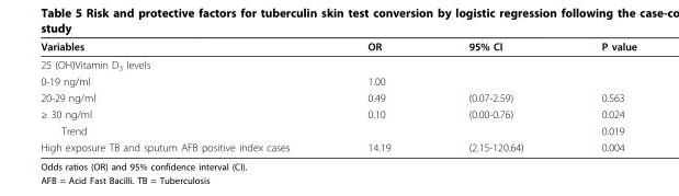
<table><thead><tr><td>Variables</td><td>OR</td><td>95% CI</td><td>P value</td></tr></thead><tbody><tr><td colspan="4">25 (OH)Vitamin D<sub>3</sub> levels</td></tr><tr><td>0-19 ng/ml</td><td>1.00</td><td></td><td></td></tr><tr><td>20-29 ng/ml</td><td>0.49</td><td>(0.07-2.59)</td><td>0.563</td></tr><tr><td>≥ 30 ng/ml</td><td>0.10</td><td>(0.00-0.76)</td><td>0.024</td></tr><tr><td>Trend</td><td></td><td></td><td>0.019</td></tr><tr><td>High exposure TB and sputum AFB positive index cases</td><td>14.19</td><td>(2.15-120.64)</td><td>0.004</td></tr></tbody></table>